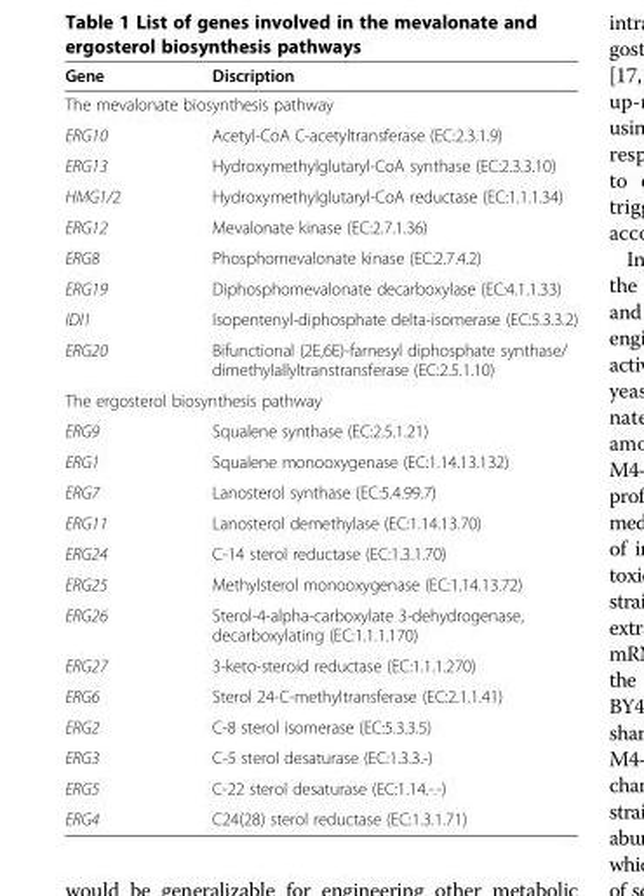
<table><thead><tr><td>Gene</td><td>Discription</td></tr></thead><tbody><tr><td colspan="2">The mevalonate biosynthesis pathway</td></tr><tr><td>ERG10</td><td>Acetyl-CoA C-acetyltransferase (EC:2.3.1.9)</td></tr><tr><td>ERG13</td><td>Hydroxymethylglutaryl-CoA synthase (EC:2.3.3.10)</td></tr><tr><td>HMG1/2</td><td>Hydroxymethylglutaryl-CoA reductase (EC:1.1.1.34)</td></tr><tr><td>ERG12</td><td>Mevalonate kinase (EC:2.7.1.36)</td></tr><tr><td>ERG8</td><td>Phosphomevalonate kinase (EC:2.7.4.2)</td></tr><tr><td>ERG19</td><td>Diphosphomevalonate decarboxylase (EC:4.1.1.33)</td></tr><tr><td>IDI1</td><td>Isopentenyl-diphosphate delta-isomerase (EC:5.3.3.2)</td></tr><tr><td>ERG20</td><td>Bifunctional (2E,6E)-farnesyl diphosphate synthase/ dimethylallyltranstransferase (EC:2.5.1.10)</td></tr><tr><td colspan="2">The ergosterol biosynthesis pathway</td></tr><tr><td>ERG9</td><td>Squalene synthase (EC:2.5.1.21)</td></tr><tr><td>ERG1</td><td>Squalene monooxygenase (EC:1.14.13.132)</td></tr><tr><td>ERG7</td><td>Lanosterol synthase (EC:5.4.99.7)</td></tr><tr><td>ERG11</td><td>Lanosterol demethylase (EC:1.14.13.70)</td></tr><tr><td>ERG24</td><td>C-14 sterol reductase (EC:1.3.1.70)</td></tr><tr><td>ERG25</td><td>Methylsterol monooxygenase (EC:1.14.13.72)</td></tr><tr><td>ERG26</td><td>Sterol-4-alpha-carboxylate 3-dehydrogenase, decarboxylating (EC:1.1.1.170)</td></tr><tr><td>ERG27</td><td>3-keto-steroid reductase (EC:1.1.1.270)</td></tr><tr><td>ERG6</td><td>Sterol 24-C-methyltransferase (EC:2.1.1.41)</td></tr><tr><td>ERG2</td><td>C-8 sterol isomerase (EC:5.3.3.5)</td></tr><tr><td>ERG3</td><td>C-5 sterol desaturase (EC:1.3.3.-)</td></tr><tr><td>ERG5</td><td>C-22 sterol desaturase (EC:1.14.-.-)</td></tr><tr><td>ERG4</td><td>C24(28) sterol reductase (EC:1.3.1.71)</td></tr></tbody></table>